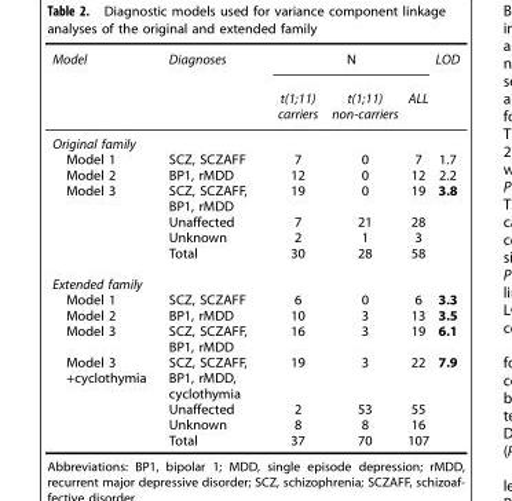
<table><thead><tr><td rowspan="2">Model</td><td rowspan="2">Diagnoses</td><td colspan="3">N</td><td rowspan="2">LOD</td></tr><tr><td>t(1;11) carriers</td><td>t(1;11) non-carriers</td><td>ALL</td></tr></thead><tbody><tr><td colspan="6">Original family</td></tr><tr><td>Model 1</td><td>SCZ, SCZAFF</td><td>7</td><td>0</td><td>7</td><td>1.7</td></tr><tr><td>Model 2</td><td>BP1, rMDD</td><td>12</td><td>0</td><td>12</td><td>2.2</td></tr><tr><td rowspan="4">Model 3</td><td>SCZ, SCZAFF, BP1, rMDD</td><td>19</td><td>0</td><td>19</td><td>3.8</td></tr><tr><td>Unaffected</td><td>7</td><td>21</td><td>28</td><td></td></tr><tr><td>Unknown</td><td>2</td><td>1</td><td>3</td><td></td></tr><tr><td>Total</td><td>30</td><td>28</td><td>58</td><td></td></tr><tr><td colspan="6">Extended family</td></tr><tr><td>Model 1</td><td>SCZ, SCZAFF</td><td>6</td><td>0</td><td>6</td><td>3.3</td></tr><tr><td>Model 2</td><td>BP1, rMDD</td><td>10</td><td>3</td><td>13</td><td>3.5</td></tr><tr><td>Model 3</td><td>SCZ, SCZAFF, BP1, rMDD</td><td>16</td><td>3</td><td>19</td><td>6.1</td></tr><tr><td rowspan="4">Model 3 +cyclothymia</td><td>SCZ, SCZAFF, BP1, rMDD, cyclothymia</td><td>19</td><td>3</td><td>22</td><td>7.9</td></tr><tr><td>Unaffected</td><td>2</td><td>53</td><td>55</td><td></td></tr><tr><td>Unknown</td><td>8</td><td>8</td><td>16</td><td></td></tr><tr><td>Total</td><td>37</td><td>70</td><td>107</td><td></td></tr></tbody></table>